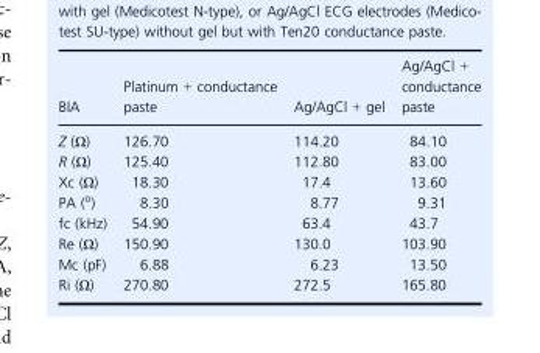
<table><thead><tr><td>BIA</td><td>Platinum + conductance paste</td><td>Ag/AgCl + gel</td><td>Ag/AgCl + conductance paste</td></tr></thead><tbody><tr><td>Z (Ω)</td><td>126.70</td><td>114.20</td><td>84.10</td></tr><tr><td>R (Ω)</td><td>125.40</td><td>112.80</td><td>83.00</td></tr><tr><td>Xc (Ω)</td><td>18.30</td><td>17.4</td><td>13.60</td></tr><tr><td>PA (<sup>o</sup>)</td><td>8.30</td><td>8.77</td><td>9.31</td></tr><tr><td>fc (kHz)</td><td>54.90</td><td>63.4</td><td>43.7</td></tr><tr><td>Re (Ω)</td><td>150.90</td><td>130.0</td><td>103.90</td></tr><tr><td>Mc (pF)</td><td>6.88</td><td>6.23</td><td>13.50</td></tr><tr><td>Ri (Ω)</td><td>270.80</td><td>272.5</td><td>165.80</td></tr></tbody></table>